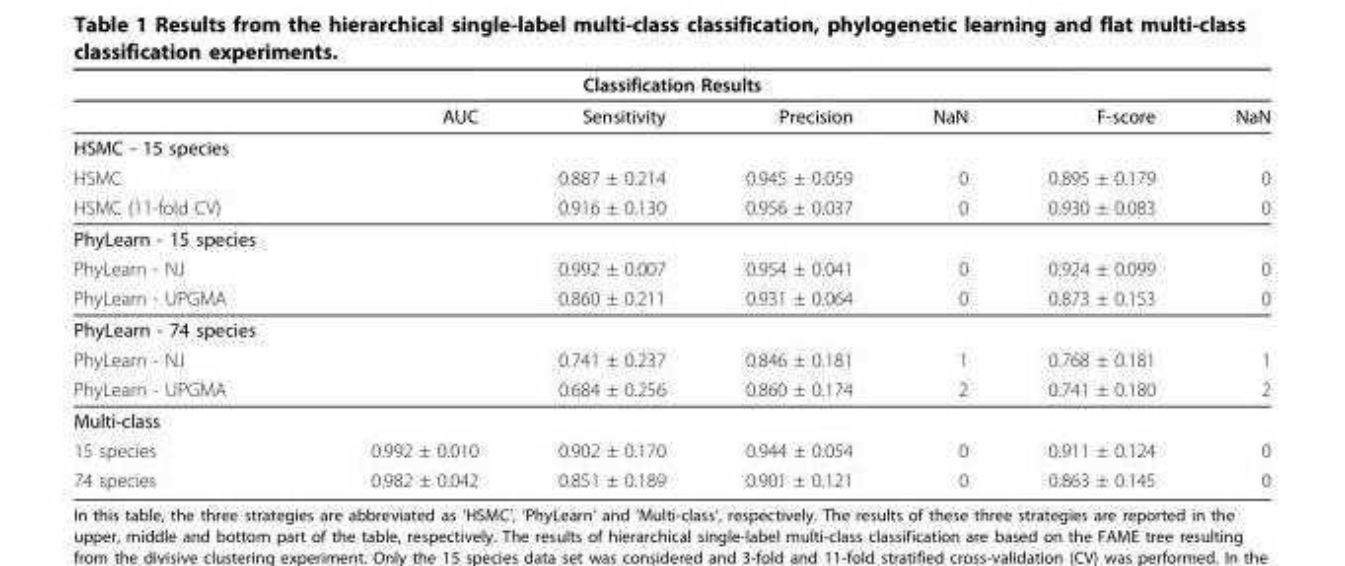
<table><thead><tr><td colspan="7">Classification Results</td></tr><tr><td></td><td>AUC</td><td>Sensitivity</td><td>Precision</td><td>NaN</td><td>F-score</td><td>NaN</td></tr></thead><tbody><tr><td colspan="7">HSMC - 15 species</td></tr><tr><td>HSMC</td><td></td><td>0.887 ± 0.214</td><td>0.945 ± 0.059</td><td>0</td><td>0.895 ± 0.179</td><td>0</td></tr><tr><td>HSMC (11-fold CV)</td><td></td><td>0.916 ± 0.130</td><td>0.956 ± 0.037</td><td>0</td><td>0.930 ± 0.083</td><td>0</td></tr><tr><td colspan="7">PhyLearn - 15 species</td></tr><tr><td>PhyLearn - NJ</td><td></td><td>0.992 ± 0.007</td><td>0.954 ± 0.041</td><td>0</td><td>0.924 ± 0.099</td><td>0</td></tr><tr><td>PhyLearn - UPGMA</td><td></td><td>0.860 ± 0.211</td><td>0.931 ± 0.064</td><td>0</td><td>0.873 ± 0.153</td><td>0</td></tr><tr><td colspan="7">PhyLearn - 74 species</td></tr><tr><td>PhyLearn - NJ</td><td></td><td>0.741 ± 0.237</td><td>0.846 ± 0.181</td><td>1</td><td>0.768 ± 0.181</td><td>1</td></tr><tr><td>PhyLearn - UPGMA</td><td></td><td>0.684 ± 0.256</td><td>0.860 ± 0.174</td><td>2</td><td>0.741 ± 0.180</td><td>2</td></tr><tr><td colspan="7">Multi-class</td></tr><tr><td>15 species</td><td>0.992 ± 0.010</td><td>0.902 ± 0.170</td><td>0.944 ± 0.054</td><td>0</td><td>0.911 ± 0.124</td><td>0</td></tr><tr><td>74 species</td><td>0.982 ± 0.042</td><td>0.851 ± 0.189</td><td>0.901 ± 0.121</td><td>0</td><td>0.863 ± 0.145</td><td>0</td></tr></tbody></table>